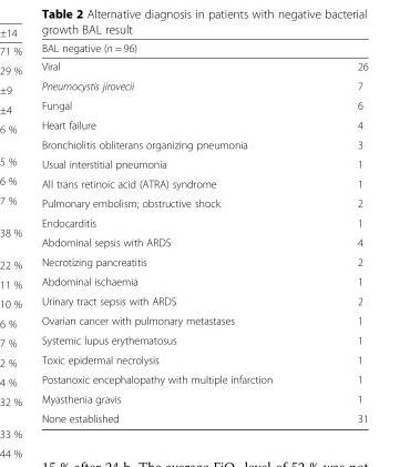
<table><thead><tr><td colspan="2">BAL negative (n = 96)</td></tr><tr><td>Viral</td><td>26</td></tr></thead><tbody><tr><td>Pneumocystis jirovecii</td><td>7</td></tr><tr><td>Fungal</td><td>6</td></tr><tr><td>Heart failure</td><td>4</td></tr><tr><td>Bronchiolitis obliterans organizing pneumonia</td><td>3</td></tr><tr><td>Usual interstitial pneumonia</td><td>1</td></tr><tr><td>All trans retinoic acid (ATRA) syndrome</td><td>1</td></tr><tr><td>Pulmonary embolism; obstructive shock</td><td>2</td></tr><tr><td>Endocarditis</td><td>1</td></tr><tr><td>Abdominal sepsis with ARDS</td><td>4</td></tr><tr><td>Necrotizing pancreatitis</td><td>2</td></tr><tr><td>Abdominal ischaemia</td><td>1</td></tr><tr><td>Urinary tract sepsis with ARDS</td><td>2</td></tr><tr><td>Ovarian cancer with pulmonary metastases</td><td>1</td></tr><tr><td>Systemic lupus erythematosus</td><td>1</td></tr><tr><td>Toxic epidermal necrolysis</td><td>1</td></tr><tr><td>Postanoxic encephalopathy with multiple infarction</td><td>1</td></tr><tr><td>Myasthenia gravis</td><td>1</td></tr><tr><td>None established</td><td>31</td></tr></tbody></table>